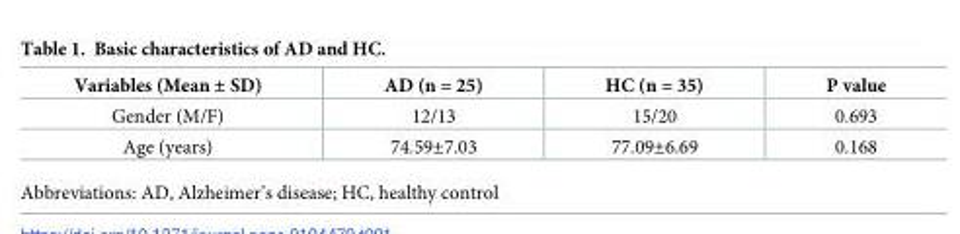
<table><thead><tr><td>Variables (Mean ± SD)</td><td>AD (n = 25)</td><td>HC (n = 35)</td><td>P value</td></tr></thead><tbody><tr><td>Gender (M/F)</td><td>12/13</td><td>15/20</td><td>0.693</td></tr><tr><td>Age (years)</td><td>74.59±7.03</td><td>77.09±6.69</td><td>0.168</td></tr></tbody></table>